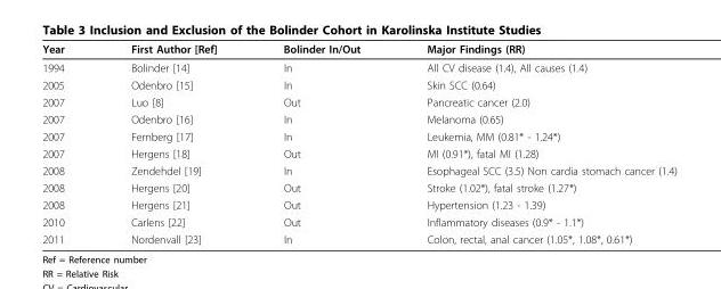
<table><thead><tr><td>Year</td><td>First Author [Ref]</td><td>Bolinder In/Out</td><td>Major Findings (RR)</td></tr></thead><tbody><tr><td>1994</td><td>Bolinder [14]</td><td>In</td><td>All CV disease (1.4), All causes (1.4)</td></tr><tr><td>2005</td><td>Odenbro [15]</td><td>In</td><td>Skin SCC (0.64)</td></tr><tr><td>2007</td><td>Luo [8]</td><td>Out</td><td>Pancreatic cancer (2.0)</td></tr><tr><td>2007</td><td>Odenbro [16]</td><td>In</td><td>Melanoma (0.65)</td></tr><tr><td>2007</td><td>Fernberg [17]</td><td>In</td><td>Leukemia, MM (0.81* - 1.24*)</td></tr><tr><td>2007</td><td>Hergens [18]</td><td>Out</td><td>MI (0.91*), fatal MI (1.28)</td></tr><tr><td>2008</td><td>Zendehdel [19]</td><td>In</td><td>Esophageal SCC (3.5) Non cardia stomach cancer (1.4)</td></tr><tr><td>2008</td><td>Hergens [20]</td><td>Out</td><td>Stroke (1.02*), fatal stroke (1.27*)</td></tr><tr><td>2008</td><td>Hergens [21]</td><td>Out</td><td>Hypertension (1.23 - 1.39)</td></tr><tr><td>2010</td><td>Carlens [22]</td><td>Out</td><td>Inflammatory diseases (0.9* - 1.1*)</td></tr><tr><td>2011</td><td>Nordenvall [23]</td><td>In</td><td>Colon, rectal, anal cancer (1.05*, 1.08*, 0.61*)</td></tr></tbody></table>